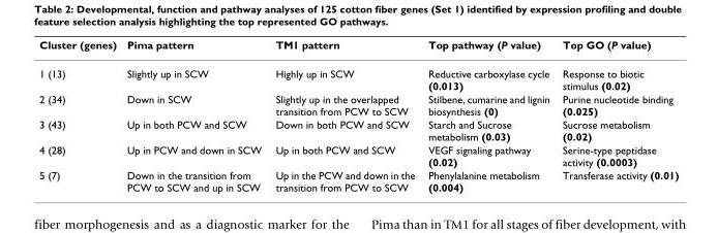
<table><thead><tr><td>Cluster (genes)</td><td>Pima pattern</td><td>TM1 pattern</td><td>Top pathway (P value)</td><td>Top GO (P value)</td></tr></thead><tbody><tr><td>1 (13)</td><td>Slightly up in SCW</td><td>Highly up in SCW</td><td>Reductive carboxylase cycle (0.013)</td><td>Response to biotic stimulus (0.02)</td></tr><tr><td>2 (34)</td><td>Down in SCW</td><td>Slightly up in the overlapped transition from PCW to SCW</td><td>Stilbene, cumarine and lignin biosynthesis (0)</td><td>Purine nucleotide binding (0.025)</td></tr><tr><td>3 (43)</td><td>Up in both PCW and SCW</td><td>Down in both PCW and SCW</td><td>Starch and Sucrose metabolism (0.03)</td><td>Sucrose metabolism (0.02)</td></tr><tr><td>4 (28)</td><td>Up in PCW and down in SCW</td><td>Up in both PCW and SCW</td><td>VEGF signaling pathway (0.02)</td><td>Serine-type peptidase activity (0.0003)</td></tr><tr><td>5 (7)</td><td>Down in the transition from PCW to SCW and up in SCW</td><td>Up in the PCW and down in the transition from PCW to SCW</td><td>Phenylalanine metabolism (0.004)</td><td>Transferase activity (0.01)</td></tr></tbody></table>